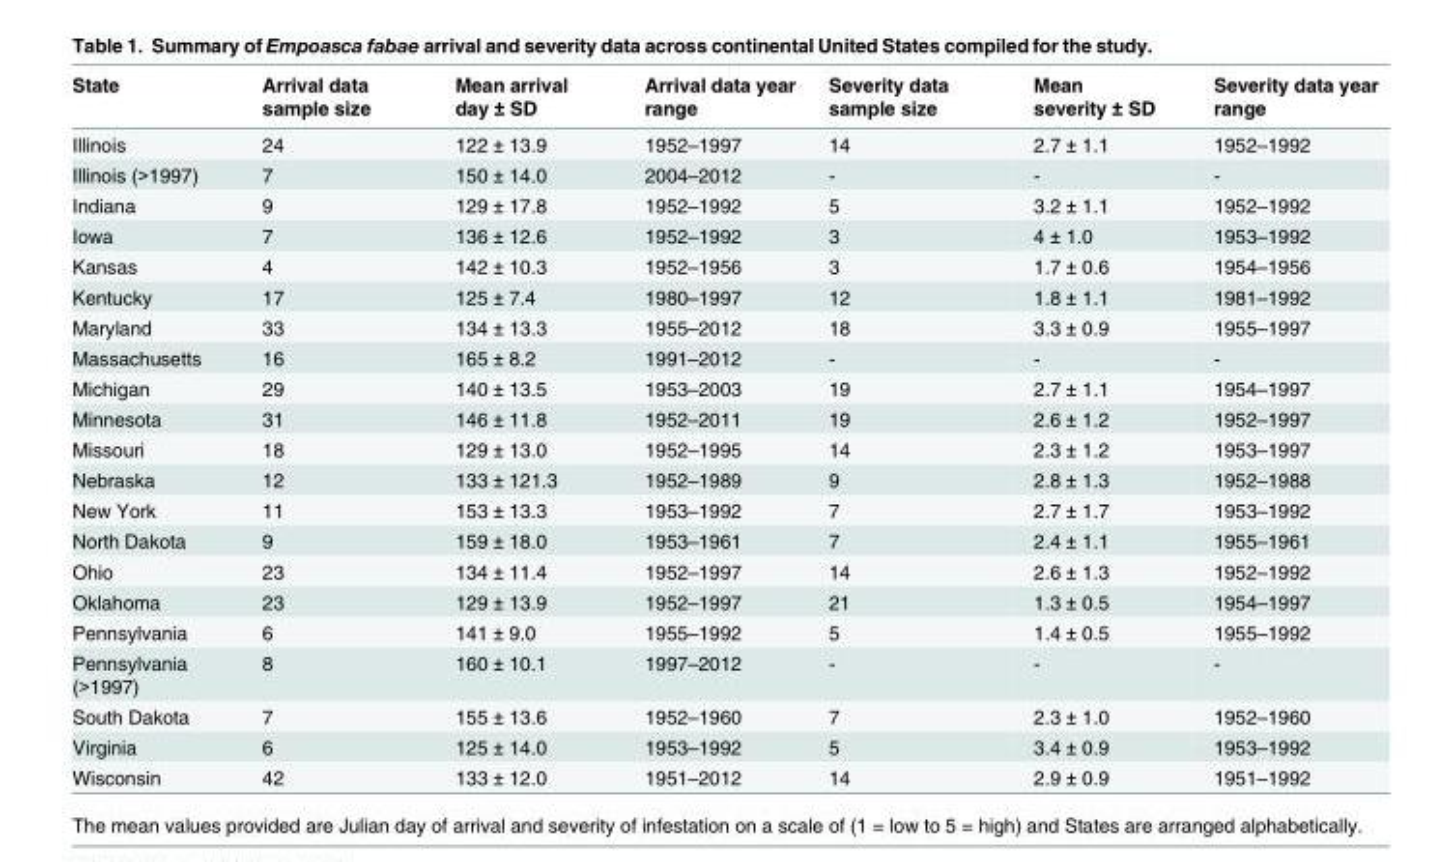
<table><thead><tr><td>State</td><td>Arrival data sample size</td><td>Mean arrival day ± SD</td><td>Arrival data year range</td><td>Severity data sample size</td><td>Mean severity ± SD</td><td>Severity data year range</td></tr></thead><tbody><tr><td>Illinois</td><td>24</td><td>122 ± 13.9</td><td>1952–1997</td><td>14</td><td>2.7 ± 1.1</td><td>1952–1992</td></tr><tr><td>Illinois (&gt;1997)</td><td>7</td><td>150 ± 14.0</td><td>2004–2012</td><td>-</td><td>-</td><td>-</td></tr><tr><td>Indiana</td><td>9</td><td>129 ± 17.8</td><td>1952–1992</td><td>5</td><td>3.2 ± 1.1</td><td>1952–1992</td></tr><tr><td>Iowa</td><td>7</td><td>136 ± 12.6</td><td>1952–1992</td><td>3</td><td>4 ± 1.0</td><td>1953–1992</td></tr><tr><td>Kansas</td><td>4</td><td>142 ± 10.3</td><td>1952–1956</td><td>3</td><td>1.7 ± 0.6</td><td>1954–1956</td></tr><tr><td>Kentucky</td><td>17</td><td>125 ± 7.4</td><td>1980–1997</td><td>12</td><td>1.8 ± 1.1</td><td>1981–1992</td></tr><tr><td>Maryland</td><td>33</td><td>134 ± 13.3</td><td>1955–2012</td><td>18</td><td>3.3 ± 0.9</td><td>1955–1997</td></tr><tr><td>Massachusetts</td><td>16</td><td>165 ± 8.2</td><td>1991–2012</td><td>-</td><td>-</td><td>-</td></tr><tr><td>Michigan</td><td>29</td><td>140 ± 13.5</td><td>1953–2003</td><td>19</td><td>2.7 ± 1.1</td><td>1954–1997</td></tr><tr><td>Minnesota</td><td>31</td><td>146 ± 11.8</td><td>1952–2011</td><td>19</td><td>2.6 ± 1.2</td><td>1952–1997</td></tr><tr><td>Missouri</td><td>18</td><td>129 ± 13.0</td><td>1952–1995</td><td>14</td><td>2.3 ± 1.2</td><td>1953–1997</td></tr><tr><td>Nebraska</td><td>12</td><td>133 ± 121.3</td><td>1952–1989</td><td>9</td><td>2.8 ± 1.3</td><td>1952–1988</td></tr><tr><td>New York</td><td>11</td><td>153 ± 13.3</td><td>1953–1992</td><td>7</td><td>2.7 ± 1.7</td><td>1953–1992</td></tr><tr><td>North Dakota</td><td>9</td><td>159 ± 18.0</td><td>1953–1961</td><td>7</td><td>2.4 ± 1.1</td><td>1955–1961</td></tr><tr><td>Ohio</td><td>23</td><td>134 ± 11.4</td><td>1952–1997</td><td>14</td><td>2.6 ± 1.3</td><td>1952–1992</td></tr><tr><td>Oklahoma</td><td>23</td><td>129 ± 13.9</td><td>1952–1997</td><td>21</td><td>1.3 ± 0.5</td><td>1954–1997</td></tr><tr><td>Pennsylvania</td><td>6</td><td>141 ± 9.0</td><td>1955–1992</td><td>5</td><td>1.4 ± 0.5</td><td>1955–1992</td></tr><tr><td>Pennsylvania (&gt;1997)</td><td>8</td><td>160 ± 10.1</td><td>1997–2012</td><td>-</td><td>-</td><td>-</td></tr><tr><td>South Dakota</td><td>7</td><td>155 ± 13.6</td><td>1952–1960</td><td>7</td><td>2.3 ± 1.0</td><td>1952–1960</td></tr><tr><td>Virginia</td><td>6</td><td>125 ± 14.0</td><td>1953–1992</td><td>5</td><td>3.4 ± 0.9</td><td>1953–1992</td></tr><tr><td>Wisconsin</td><td>42</td><td>133 ± 12.0</td><td>1951–2012</td><td>14</td><td>2.9 ± 0.9</td><td>1951–1992</td></tr></tbody></table>